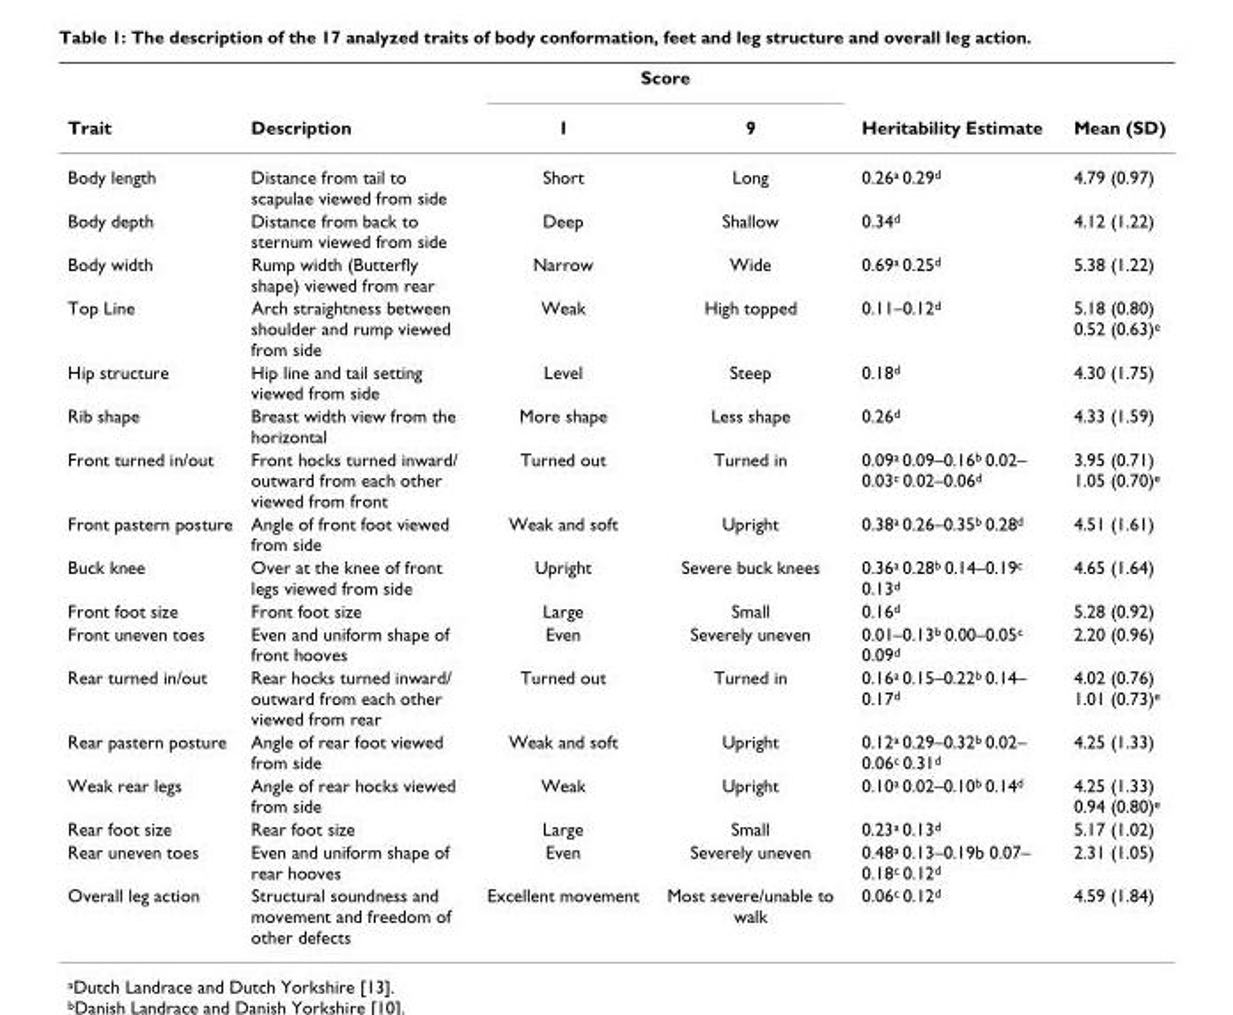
<table><thead><tr><td rowspan="2">Trait</td><td rowspan="2">Description</td><td colspan="2">Score</td><td rowspan="2">Heritability Estimate</td><td rowspan="2">Mean (SD)</td></tr><tr><td>1</td><td>9</td></tr></thead><tbody><tr><td>Body length</td><td>Distance from tail to scapulae viewed from side</td><td>Short</td><td>Long</td><td>0.26<sup>a</sup> 0.29<sup>d</sup></td><td>4.79 (0.97)</td></tr><tr><td>Body depth</td><td>Distance from back to sternum viewed from side</td><td>Deep</td><td>Shallow</td><td>0.34<sup>d</sup></td><td>4.12 (1.22)</td></tr><tr><td>Body width</td><td>Rump width (Butterfly shape) viewed from rear</td><td>Narrow</td><td>Wide</td><td>0.69<sup>a</sup> 0.25<sup>d</sup></td><td>5.38 (1.22)</td></tr><tr><td>Top Line</td><td>Arch straightness between shoulder and rump viewed from side</td><td>Weak</td><td>High topped</td><td>0.11–0.12<sup>d</sup></td><td>5.18 (0.80) 0.52 (0.63)<sup>e</sup></td></tr><tr><td>Hip structure</td><td>Hip line and tail setting viewed from side</td><td>Level</td><td>Steep</td><td>0.18<sup>d</sup></td><td>4.30 (1.75)</td></tr><tr><td>Rib shape</td><td>Breast width view from the horizontal</td><td>More shape</td><td>Less shape</td><td>0.26<sup>d</sup></td><td>4.33 (1.59)</td></tr><tr><td>Front turned in/out</td><td>Front hocks turned inward/ outward from each other viewed from front</td><td>Turned out</td><td>Turned in</td><td>0.09<sup>a</sup> 0.09–0.16<sup>b</sup> 0.02– 0.03<sup>c</sup> 0.02–0.06<sup>d</sup></td><td>3.95 (0.71) 1.05 (0.70)<sup>e</sup></td></tr><tr><td>Front pastern posture</td><td>Angle of front foot viewed from side</td><td>Weak and soft</td><td>Upright</td><td>0.38<sup>a</sup> 0.26–0.35<sup>b</sup> 0.28<sup>d</sup></td><td>4.51 (1.61)</td></tr><tr><td>Buck knee</td><td>Over at the knee of front legs viewed from side</td><td>Upright</td><td>Severe buck knees</td><td>0.36<sup>a</sup> 0.28<sup>b</sup> 0.14–0.19<sup>c</sup> 0.13<sup>d</sup></td><td>4.65 (1.64)</td></tr><tr><td>Front foot size</td><td>Front foot size</td><td>Large</td><td>Small</td><td>0.16<sup>d</sup></td><td>5.28 (0.92)</td></tr><tr><td>Front uneven toes</td><td>Even and uniform shape of front hooves</td><td>Even</td><td>Severely uneven</td><td>0.01–0.13<sup>b</sup> 0.00–0.05<sup>c</sup> 0.09<sup>d</sup></td><td>2.20 (0.96)</td></tr><tr><td>Rear turned in/out</td><td>Rear hocks turned inward/ outward from each other viewed from rear</td><td>Turned out</td><td>Turned in</td><td>0.16<sup>a</sup> 0.15–0.22<sup>b</sup> 0.14– 0.17<sup>d</sup></td><td>4.02 (0.76) 1.01 (0.73)<sup>e</sup></td></tr><tr><td>Rear pastern posture</td><td>Angle of rear foot viewed from side</td><td>Weak and soft</td><td>Upright</td><td>0.12<sup>a</sup> 0.29–0.32<sup>b</sup> 0.02– 0.06<sup>c</sup> 0.31<sup>d</sup></td><td>4.25 (1.33)</td></tr><tr><td>Weak rear legs</td><td>Angle of rear hocks viewed from side</td><td>Weak</td><td>Upright</td><td>0.10<sup>a</sup> 0.02–0.10<sup>b</sup> 0.14<sup>d</sup></td><td>4.25 (1.33) 0.94 (0.80)<sup>e</sup></td></tr><tr><td>Rear foot size</td><td>Rear foot size</td><td>Large</td><td>Small</td><td>0.23<sup>a</sup> 0.13<sup>d</sup></td><td>5.17 (1.02)</td></tr><tr><td>Rear uneven toes</td><td>Even and uniform shape of rear hooves</td><td>Even</td><td>Severely uneven</td><td>0.48<sup>a</sup> 0.13–0.19b 0.07– 0.18<sup>c</sup> 0.12<sup>d</sup></td><td>2.31 (1.05)</td></tr><tr><td>Overall leg action</td><td>Structural soundness and movement and freedom of other defects</td><td>Excellent movement</td><td>Most severe/unable to walk</td><td>0.06<sup>c</sup> 0.12<sup>d</sup></td><td>4.59 (1.84)</td></tr></tbody></table>